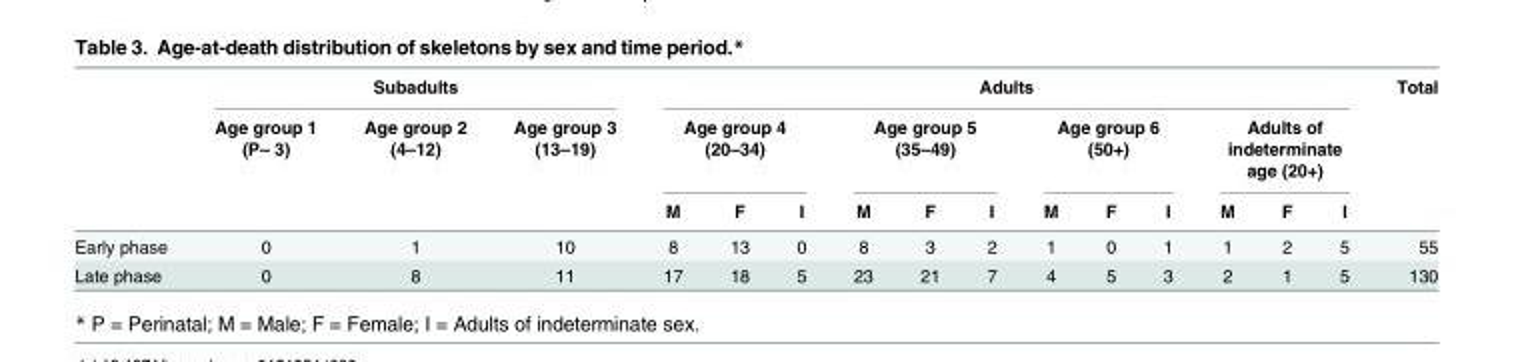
<table><thead><tr><td rowspan="3"></td><td colspan="3">Subadults</td><td colspan="12">Adults</td><td rowspan="3">Total</td></tr><tr><td rowspan="2">Age group 1 (P– 3)</td><td rowspan="2">Age group 2 (4–12)</td><td rowspan="2">Age group 3 (13–19)</td><td colspan="3">Age group 4 (20–34)</td><td colspan="3">Age group 5 (35–49)</td><td colspan="3">Age group 6 (50+)</td><td colspan="3">Adults of indeterminate age (20+)</td></tr><tr><td>M</td><td>F</td><td>I</td><td>M</td><td>F</td><td>I</td><td>M</td><td>F</td><td>I</td><td>M</td><td>F</td><td>I</td></tr></thead><tbody><tr><td>Early phase</td><td>0</td><td>1</td><td>10</td><td>8</td><td>13</td><td>0</td><td>8</td><td>3</td><td>2</td><td>1</td><td>0</td><td>1</td><td>1</td><td>2</td><td>5</td><td>55</td></tr><tr><td>Late phase</td><td>0</td><td>8</td><td>11</td><td>17</td><td>18</td><td>5</td><td>23</td><td>21</td><td>7</td><td>4</td><td>5</td><td>3</td><td>2</td><td>1</td><td>5</td><td>130</td></tr></tbody></table>